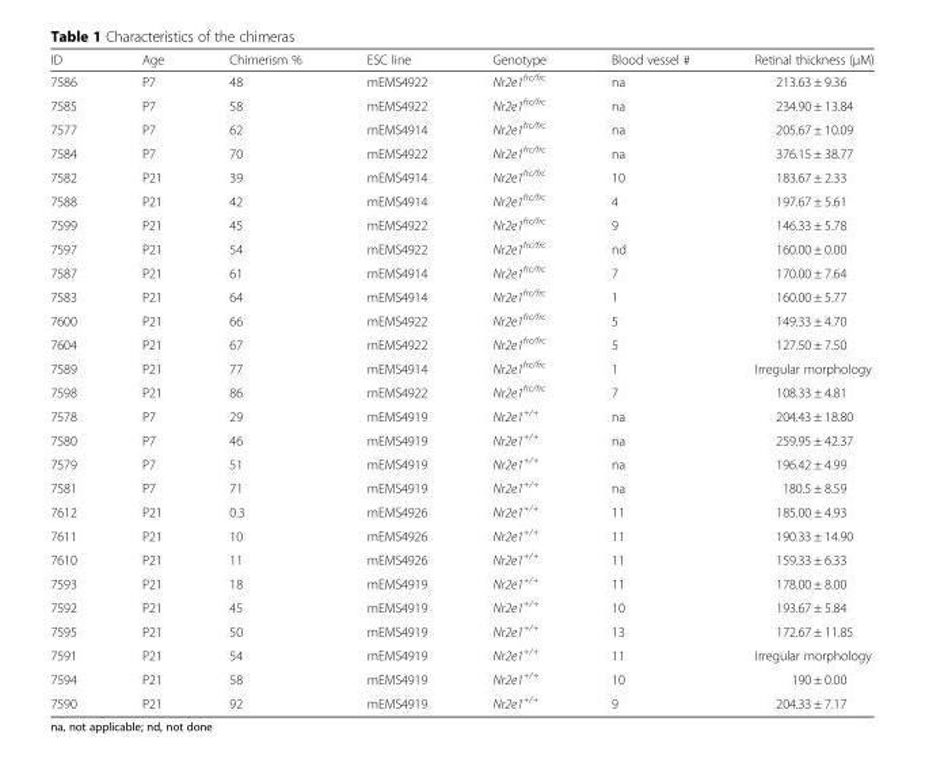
<table><thead><tr><td>ID</td><td>Age</td><td>Chimerism %</td><td>ESC line</td><td>Genotype</td><td>Blood vessel #</td><td>Retinal thickness (μM)</td></tr></thead><tbody><tr><td>7586</td><td>P7</td><td>48</td><td>mEMS4922</td><td>Nr2e1<sup>frc/frc</sup></td><td>na</td><td>213.63 ± 9.36</td></tr><tr><td>7585</td><td>P7</td><td>58</td><td>mEMS4922</td><td>Nr2e1<sup>frc/frc</sup></td><td>na</td><td>234.90 ± 13.84</td></tr><tr><td>7577</td><td>P7</td><td>62</td><td>mEMS4914</td><td>Nr2e1<sup>frc/frc</sup></td><td>na</td><td>205.67 ± 10.09</td></tr><tr><td>7584</td><td>P7</td><td>70</td><td>mEMS4922</td><td>Nr2e1<sup>frc/frc</sup></td><td>na</td><td>376.15 ± 38.77</td></tr><tr><td>7582</td><td>P21</td><td>39</td><td>mEMS4914</td><td>Nr2e1<sup>frc/frc</sup></td><td>10</td><td>183.67 ± 2.33</td></tr><tr><td>7588</td><td>P21</td><td>42</td><td>mEMS4914</td><td>Nr2e1<sup>frc/frc</sup></td><td>4</td><td>197.67 ± 5.61</td></tr><tr><td>7599</td><td>P21</td><td>45</td><td>mEMS4922</td><td>Nr2e1<sup>frc/frc</sup></td><td>9</td><td>146.33 ± 5.78</td></tr><tr><td>7597</td><td>P21</td><td>54</td><td>mEMS4922</td><td>Nr2e1<sup>frc/frc</sup></td><td>nd</td><td>160.00 ± 0.00</td></tr><tr><td>7587</td><td>P21</td><td>61</td><td>mEMS4914</td><td>Nr2e1<sup>frc/frc</sup></td><td>7</td><td>170.00 ± 7.64</td></tr><tr><td>7583</td><td>P21</td><td>64</td><td>mEMS4914</td><td>Nr2e1<sup>frc/frc</sup></td><td>1</td><td>160.00 ± 5.77</td></tr><tr><td>7600</td><td>P21</td><td>66</td><td>mEMS4922</td><td>Nr2e1<sup>frc/frc</sup></td><td>5</td><td>149.33 ± 4.70</td></tr><tr><td>7604</td><td>P21</td><td>67</td><td>mEMS4922</td><td>Nr2e1<sup>frc/frc</sup></td><td>5</td><td>127.50 ± 7.50</td></tr><tr><td>7589</td><td>P21</td><td>77</td><td>mEMS4914</td><td>Nr2e1<sup>frc/frc</sup></td><td>1</td><td>Irregular morphology</td></tr><tr><td>7598</td><td>P21</td><td>86</td><td>mEMS4922</td><td>Nr2e1<sup>frc/frc</sup></td><td>7</td><td>108.33 ± 4.81</td></tr><tr><td>7578</td><td>P7</td><td>29</td><td>mEMS4919</td><td>Nr2e1<sup>+/+</sup></td><td>na</td><td>204.43 ± 18.80</td></tr><tr><td>7580</td><td>P7</td><td>46</td><td>mEMS4919</td><td>Nr2e1<sup>+/+</sup></td><td>na</td><td>259.95 ± 42.37</td></tr><tr><td>7579</td><td>P7</td><td>51</td><td>mEMS4919</td><td>Nr2e1<sup>+/+</sup></td><td>na</td><td>196.42 ± 4.99</td></tr><tr><td>7581</td><td>P7</td><td>71</td><td>mEMS4919</td><td>Nr2e1<sup>+/+</sup></td><td>na</td><td>180.5 ± 8.59</td></tr><tr><td>7612</td><td>P21</td><td>0.3</td><td>mEMS4926</td><td>Nr2e1<sup>+/+</sup></td><td>11</td><td>185.00 ± 4.93</td></tr><tr><td>7611</td><td>P21</td><td>10</td><td>mEMS4926</td><td>Nr2e1<sup>+/+</sup></td><td>11</td><td>190.33 ± 14.90</td></tr><tr><td>7610</td><td>P21</td><td>11</td><td>mEMS4926</td><td>Nr2e1<sup>+/+</sup></td><td>11</td><td>159.33 ± 6.33</td></tr><tr><td>7593</td><td>P21</td><td>18</td><td>mEMS4919</td><td>Nr2e1<sup>+/+</sup></td><td>11</td><td>178.00 ± 8.00</td></tr><tr><td>7592</td><td>P21</td><td>45</td><td>mEMS4919</td><td>Nr2e1<sup>+/+</sup></td><td>10</td><td>193.67 ± 5.84</td></tr><tr><td>7595</td><td>P21</td><td>50</td><td>mEMS4919</td><td>Nr2e1<sup>+/+</sup></td><td>13</td><td>172.67 ± 11.85</td></tr><tr><td>7591</td><td>P21</td><td>54</td><td>mEMS4919</td><td>Nr2e1<sup>+/+</sup></td><td>11</td><td>Irregular morphology</td></tr><tr><td>7594</td><td>P21</td><td>58</td><td>mEMS4919</td><td>Nr2e1<sup>+/+</sup></td><td>10</td><td>190 ± 0.00</td></tr><tr><td>7590</td><td>P21</td><td>92</td><td>mEMS4919</td><td>Nr2e1<sup>+/+</sup></td><td>9</td><td>204.33 ± 7.17</td></tr></tbody></table>